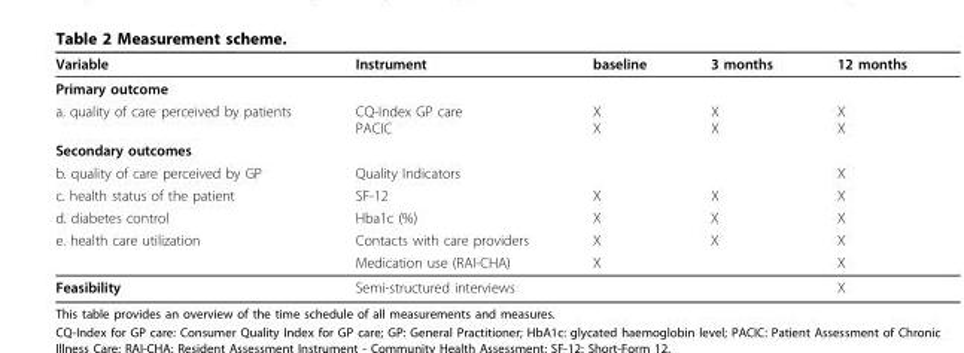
<table><thead><tr><td>Variable</td><td>Instrument</td><td>baseline</td><td>3 months</td><td>12 months</td></tr></thead><tbody><tr><td colspan="5">Primary outcome</td></tr><tr><td>a. quality of care perceived by patients</td><td>CQ-Index GP care PACIC</td><td>X X</td><td>X X</td><td>X X</td></tr><tr><td colspan="5">Secondary outcomes</td></tr><tr><td>b. quality of care perceived by GP</td><td>Quality Indicators</td><td></td><td></td><td>X</td></tr><tr><td>c. health status of the patient</td><td>SF-12</td><td>X</td><td>X</td><td>X</td></tr><tr><td>d. diabetes control</td><td>Hba1c (%)</td><td>X</td><td>X</td><td>X</td></tr><tr><td rowspan="2">e. health care utilization</td><td>Contacts with care providers</td><td>X</td><td>X</td><td>X</td></tr><tr><td>Medication use (RAI-CHA)</td><td>X</td><td></td><td>X</td></tr><tr><td>Feasibility</td><td>Semi-structured interviews</td><td></td><td></td><td>X</td></tr></tbody></table>